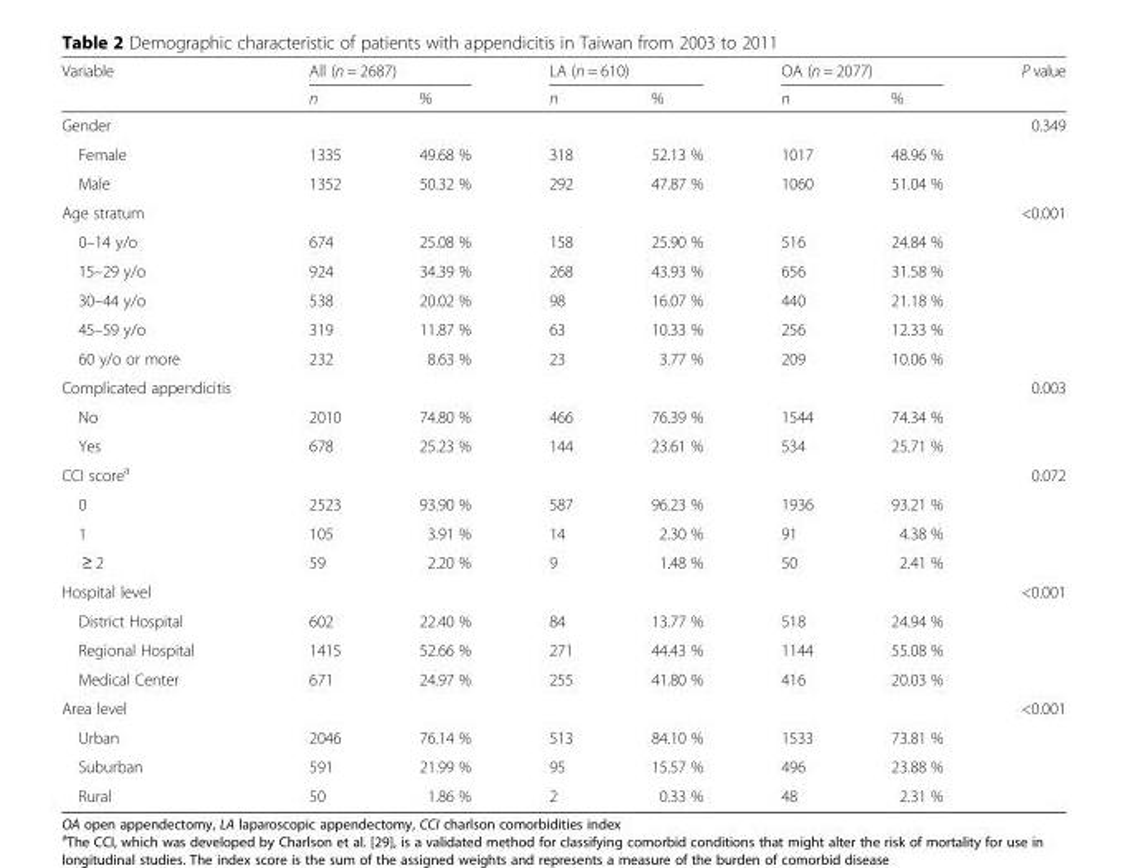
<table><thead><tr><td rowspan="2">Variable</td><td colspan="2">All (n = 2687)</td><td colspan="2">LA (n = 610)</td><td colspan="2">OA (n = 2077)</td><td rowspan="2">P value</td></tr><tr><td>n</td><td>%</td><td>n</td><td>%</td><td>n</td><td>%</td></tr></thead><tbody><tr><td>Gender</td><td colspan="2"></td><td colspan="2"></td><td colspan="2"></td><td>0.349</td></tr><tr><td>Female</td><td>1335</td><td>49.68 %</td><td>318</td><td>52.13 %</td><td>1017</td><td>48.96 %</td><td rowspan="2"></td></tr><tr><td>Male</td><td>1352</td><td>50.32 %</td><td>292</td><td>47.87 %</td><td>1060</td><td>51.04 %</td></tr><tr><td>Age stratum</td><td></td><td></td><td></td><td></td><td></td><td></td><td>&lt;0.001</td></tr><tr><td>0–14 y/o</td><td>674</td><td>25.08 %</td><td>158</td><td>25.90 %</td><td>516</td><td>24.84 %</td><td rowspan="5"></td></tr><tr><td>15–29 y/o</td><td>924</td><td>34.39 %</td><td>268</td><td>43.93 %</td><td>656</td><td>31.58 %</td></tr><tr><td>30–44 y/o</td><td>538</td><td>20.02 %</td><td>98</td><td>16.07 %</td><td>440</td><td>21.18 %</td></tr><tr><td>45–59 y/o</td><td>319</td><td>11.87 %</td><td>63</td><td>10.33 %</td><td>256</td><td>12.33 %</td></tr><tr><td>60 y/o or more</td><td>232</td><td>8.63 %</td><td>23</td><td>3.77 %</td><td>209</td><td>10.06 %</td></tr><tr><td>Complicated appendicitis</td><td colspan="2"></td><td colspan="2"></td><td colspan="2"></td><td>0.003</td></tr><tr><td>No</td><td>2010</td><td>74.80 %</td><td>466</td><td>76.39 %</td><td>1544</td><td>74.34 %</td><td rowspan="2"></td></tr><tr><td>Yes</td><td>678</td><td>25.23 %</td><td>144</td><td>23.61 %</td><td>534</td><td>25.71 %</td></tr><tr><td>CCI score<sup>a</sup></td><td colspan="2"></td><td colspan="2"></td><td colspan="2"></td><td>0.072</td></tr><tr><td>0</td><td>2523</td><td>93.90 %</td><td>587</td><td>96.23 %</td><td>1936</td><td>93.21 %</td><td rowspan="3"></td></tr><tr><td>1</td><td>105</td><td>3.91 %</td><td>14</td><td>2.30 %</td><td>91</td><td>4.38 %</td></tr><tr><td>≥ 2</td><td>59</td><td>2.20 %</td><td>9</td><td>1.48 %</td><td>50</td><td>2.41 %</td></tr><tr><td>Hospital level</td><td colspan="2"></td><td colspan="2"></td><td colspan="2"></td><td>&lt;0.001</td></tr><tr><td>District Hospital</td><td>602</td><td>22.40 %</td><td>84</td><td>13.77 %</td><td>518</td><td>24.94 %</td><td rowspan="3"></td></tr><tr><td>Regional Hospital</td><td>1415</td><td>52.66 %</td><td>271</td><td>44.43 %</td><td>1144</td><td>55.08 %</td></tr><tr><td>Medical Center</td><td>671</td><td>24.97 %</td><td>255</td><td>41.80 %</td><td>416</td><td>20.03 %</td></tr><tr><td>Area level</td><td colspan="2"></td><td colspan="2"></td><td colspan="2"></td><td>&lt;0.001</td></tr><tr><td>Urban</td><td>2046</td><td>76.14 %</td><td>513</td><td>84.10 %</td><td>1533</td><td>73.81 %</td><td rowspan="3"></td></tr><tr><td>Suburban</td><td>591</td><td>21.99 %</td><td>95</td><td>15.57 %</td><td>496</td><td>23.88 %</td></tr><tr><td>Rural</td><td>50</td><td>1.86 %</td><td>2</td><td>0.33 %</td><td>48</td><td>2.31 %</td></tr></tbody></table>